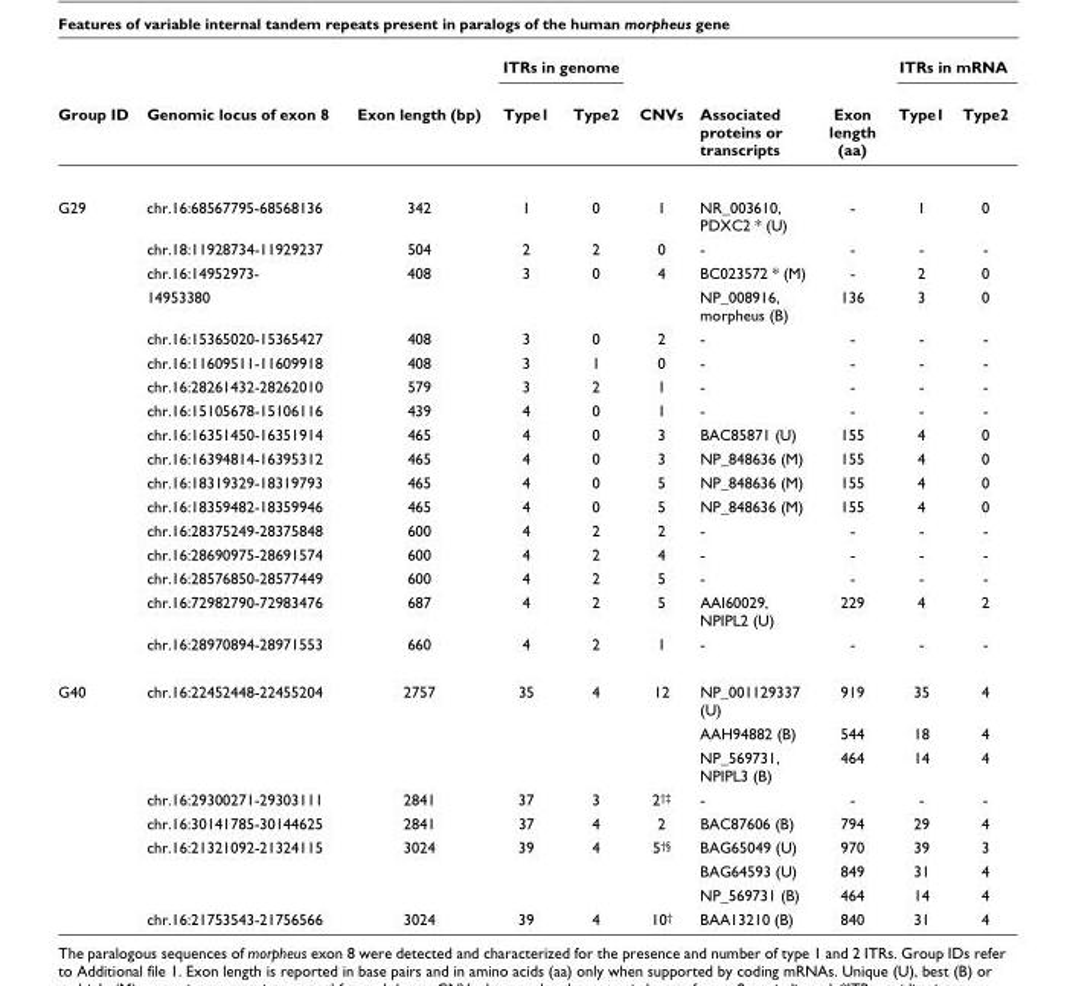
<table><thead><tr><td rowspan="2">Group ID</td><td rowspan="2">Genomic locus of exon 8</td><td rowspan="2">Exon length (bp)</td><td colspan="2">ITRs in genome</td><td rowspan="2">CNVs</td><td rowspan="2">Associated proteins or transcripts</td><td rowspan="2">Exon length (aa)</td><td colspan="2">ITRs in mRNA</td></tr><tr><td>Type1</td><td>Type2</td><td>Type1</td><td>Type2</td></tr></thead><tbody><tr><td rowspan="17">G29</td><td>chr.16:68567795-68568136</td><td>342</td><td>1</td><td>0</td><td>1</td><td>NR_003610, PDXC2 * (U)</td><td>-</td><td>1</td><td>0</td></tr><tr><td>chr.18:11928734-11929237</td><td>504</td><td>2</td><td>2</td><td>0</td><td>-</td><td>-</td><td>-</td><td>-</td></tr><tr><td>chr.16:14952973-</td><td>408</td><td>3</td><td>0</td><td>4</td><td>BC023572 * (M)</td><td>-</td><td>2</td><td>0</td></tr><tr><td>14953380</td><td></td><td></td><td></td><td></td><td>NP_008916, morpheus (B)</td><td>136</td><td>3</td><td>0</td></tr><tr><td>chr.16:15365020-15365427</td><td>408</td><td>3</td><td>0</td><td>2</td><td>-</td><td>-</td><td>-</td><td>-</td></tr><tr><td>chr.16:11609511-11609918</td><td>408</td><td>3</td><td>1</td><td>0</td><td>-</td><td>-</td><td>-</td><td>-</td></tr><tr><td>chr.16:28261432-28262010</td><td>579</td><td>3</td><td>2</td><td>1</td><td>-</td><td>-</td><td>-</td><td>-</td></tr><tr><td>chr.16:15105678-15106116</td><td>439</td><td>4</td><td>0</td><td>1</td><td>-</td><td>-</td><td>-</td><td>-</td></tr><tr><td>chr.16:16351450-16351914</td><td>465</td><td>4</td><td>0</td><td>3</td><td>BAC85871 (U)</td><td>155</td><td>4</td><td>0</td></tr><tr><td>chr.16:16394814-16395312</td><td>465</td><td>4</td><td>0</td><td>3</td><td>NP_848636 (M)</td><td>155</td><td>4</td><td>0</td></tr><tr><td>chr.16:18319329-18319793</td><td>465</td><td>4</td><td>0</td><td>5</td><td>NP_848636 (M)</td><td>155</td><td>4</td><td>0</td></tr><tr><td>chr.16:18359482-18359946</td><td>465</td><td>4</td><td>0</td><td>5</td><td>NP_848636 (M)</td><td>155</td><td>4</td><td>0</td></tr><tr><td>chr.16:28375249-28375848</td><td>600</td><td>4</td><td>2</td><td>2</td><td>-</td><td>-</td><td>-</td><td>-</td></tr><tr><td>chr.16:28690975-28691574</td><td>600</td><td>4</td><td>2</td><td>4</td><td>-</td><td>-</td><td>-</td><td>-</td></tr><tr><td>chr.16:28576850-28577449</td><td>600</td><td>4</td><td>2</td><td>5</td><td>-</td><td>-</td><td>-</td><td>-</td></tr><tr><td>chr.16:72982790-72983476</td><td>687</td><td>4</td><td>2</td><td>5</td><td>AAI60029, NPIPL2 (U)</td><td>229</td><td>4</td><td>2</td></tr><tr><td>chr.16:28970894-28971553</td><td>660</td><td>4</td><td>2</td><td>1</td><td>-</td><td>-</td><td>-</td><td>-</td></tr><tr><td rowspan="9">G40</td><td>chr.16:22452448-22455204</td><td>2757</td><td>35</td><td>4</td><td>12</td><td>NP_001129337 (U)</td><td>919</td><td>35</td><td>4</td></tr><tr><td></td><td></td><td></td><td></td><td></td><td>AAH94882 (B)</td><td>544</td><td>18</td><td>4</td></tr><tr><td></td><td></td><td></td><td></td><td></td><td>NP_569731, NPIPL3 (B)</td><td>464</td><td>14</td><td>4</td></tr><tr><td>chr.16:29300271-29303111</td><td>2841</td><td>37</td><td>3</td><td>2<sup>†‡</sup></td><td>-</td><td>-</td><td>-</td><td>-</td></tr><tr><td>chr.16:30141785-30144625</td><td>2841</td><td>37</td><td>4</td><td>2</td><td>BAC87606 (B)</td><td>794</td><td>29</td><td>4</td></tr><tr><td>chr.16:21321092-21324115</td><td>3024</td><td>39</td><td>4</td><td>5<sup>†§</sup></td><td>BAG65049 (U)</td><td>970</td><td>39</td><td>3</td></tr><tr><td></td><td></td><td></td><td></td><td></td><td>BAG64593 (U)</td><td>849</td><td>31</td><td>4</td></tr><tr><td></td><td></td><td></td><td></td><td></td><td>NP_569731 (B)</td><td>464</td><td>14</td><td>4</td></tr><tr><td>chr.16:21753543-21756566</td><td>3024</td><td>39</td><td>4</td><td>10<sup>†</sup></td><td>BAA13210 (B)</td><td>840</td><td>31</td><td>4</td></tr></tbody></table>